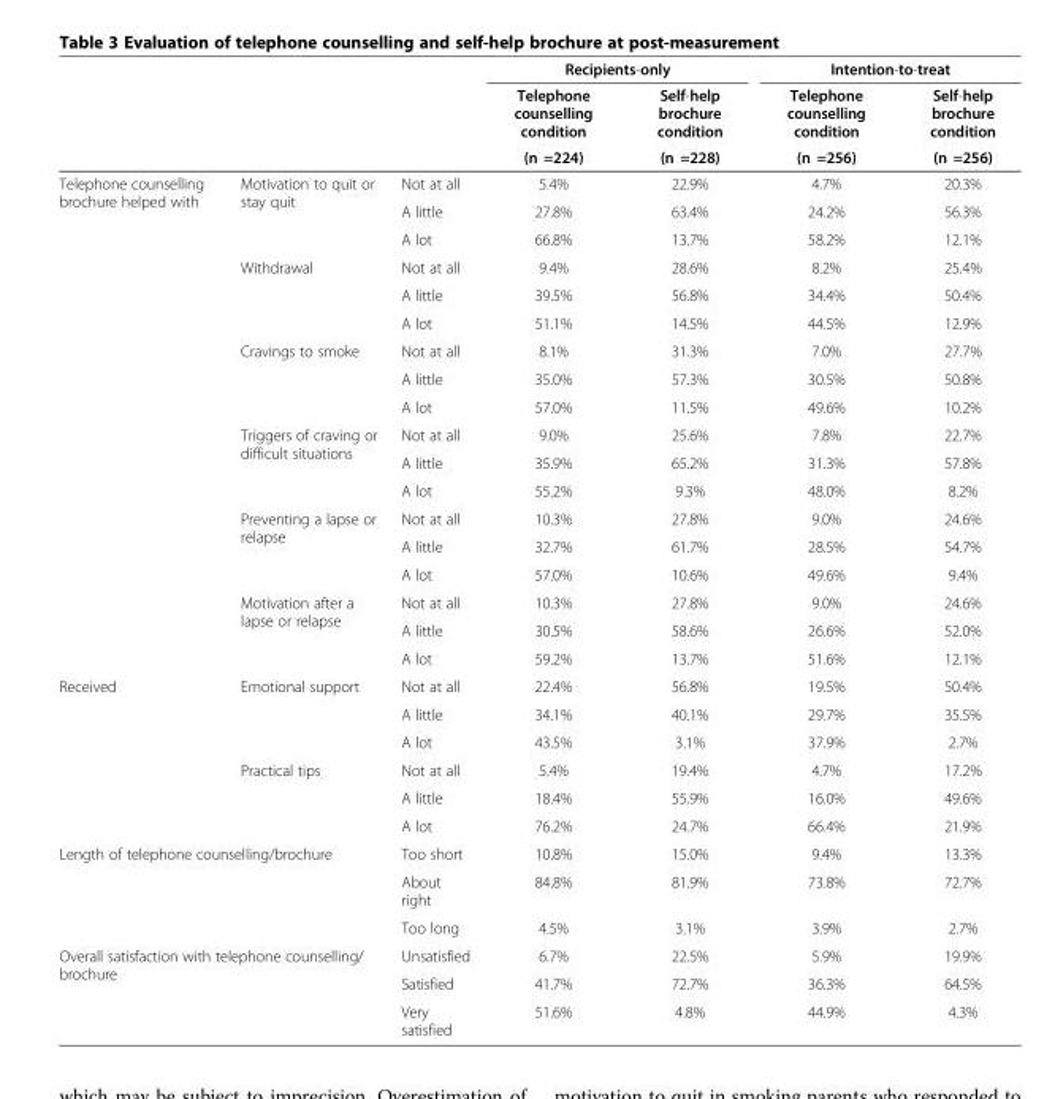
<table><thead><tr><td rowspan="3"></td><td rowspan="3"></td><td rowspan="3"></td><td colspan="2">Recipients-only</td><td colspan="2">Intention-to-treat</td></tr><tr><td rowspan="2">Telephone counselling condition (n =224)</td><td rowspan="2">Self-help brochure condition (n =228)</td><td rowspan="2">Telephone counselling condition (n =256)</td><td rowspan="2">Self-help brochure condition (n =256)</td></tr><tr></tr></thead><tbody><tr><td rowspan="18">Telephone counselling brochure helped with</td><td rowspan="3">Motivation to quit or stay quit</td><td>Not at all</td><td>5.4%</td><td>22.9%</td><td>4.7%</td><td>20.3%</td></tr><tr><td>A little</td><td>27.8%</td><td>63.4%</td><td>24.2%</td><td>56.3%</td></tr><tr><td>A lot</td><td>66.8%</td><td>13.7%</td><td>58.2%</td><td>12.1%</td></tr><tr><td rowspan="3">Withdrawal</td><td>Not at all</td><td>9.4%</td><td>28.6%</td><td>8.2%</td><td>25.4%</td></tr><tr><td>A little</td><td>39.5%</td><td>56.8%</td><td>34.4%</td><td>50.4%</td></tr><tr><td>A lot</td><td>51.1%</td><td>14.5%</td><td>44.5%</td><td>12.9%</td></tr><tr><td rowspan="3">Cravings to smoke</td><td>Not at all</td><td>8.1%</td><td>31.3%</td><td>7.0%</td><td>27.7%</td></tr><tr><td>A little</td><td>35.0%</td><td>57.3%</td><td>30.5%</td><td>50.8%</td></tr><tr><td>A lot</td><td>57.0%</td><td>11.5%</td><td>49.6%</td><td>10.2%</td></tr><tr><td rowspan="3">Triggers of craving or difficult situations</td><td>Not at all</td><td>9.0%</td><td>25.6%</td><td>7.8%</td><td>22.7%</td></tr><tr><td>A little</td><td>35.9%</td><td>65.2%</td><td>31.3%</td><td>57.8%</td></tr><tr><td>A lot</td><td>55.2%</td><td>9.3%</td><td>48.0%</td><td>8.2%</td></tr><tr><td rowspan="3">Preventing a lapse or relapse</td><td>Not at all</td><td>10.3%</td><td>27.8%</td><td>9.0%</td><td>24.6%</td></tr><tr><td>A little</td><td>32.7%</td><td>61.7%</td><td>28.5%</td><td>54.7%</td></tr><tr><td>A lot</td><td>57.0%</td><td>10.6%</td><td>49.6%</td><td>9.4%</td></tr><tr><td rowspan="3">Motivation after a lapse or relapse</td><td>Not at all</td><td>10.3%</td><td>27.8%</td><td>9.0%</td><td>24.6%</td></tr><tr><td>A little</td><td>30.5%</td><td>58.6%</td><td>26.6%</td><td>52.0%</td></tr><tr><td>A lot</td><td>59.2%</td><td>13.7%</td><td>51.6%</td><td>12.1%</td></tr><tr><td rowspan="6">Received</td><td rowspan="3">Emotional support</td><td>Not at all</td><td>22.4%</td><td>56.8%</td><td>19.5%</td><td>50.4%</td></tr><tr><td>A little</td><td>34.1%</td><td>40.1%</td><td>29.7%</td><td>35.5%</td></tr><tr><td>A lot</td><td>43.5%</td><td>3.1%</td><td>37.9%</td><td>2.7%</td></tr><tr><td rowspan="3">Practical tips</td><td>Not at all</td><td>5.4%</td><td>19.4%</td><td>4.7%</td><td>17.2%</td></tr><tr><td>A little</td><td>18.4%</td><td>55.9%</td><td>16.0%</td><td>49.6%</td></tr><tr><td>A lot</td><td>76.2%</td><td>24.7%</td><td>66.4%</td><td>21.9%</td></tr><tr><td rowspan="3" colspan="2">Length of telephone counselling/brochure</td><td>Too short</td><td>10.8%</td><td>15.0%</td><td>9.4%</td><td>13.3%</td></tr><tr><td>About right</td><td>84.8%</td><td>81.9%</td><td>73.8%</td><td>72.7%</td></tr><tr><td>Too long</td><td>4.5%</td><td>3.1%</td><td>3.9%</td><td>2.7%</td></tr><tr><td rowspan="3" colspan="2">Overall satisfaction with telephone counselling/ brochure</td><td>Unsatisfied</td><td>6.7%</td><td>22.5%</td><td>5.9%</td><td>19.9%</td></tr><tr><td>Satisfied</td><td>41.7%</td><td>72.7%</td><td>36.3%</td><td>64.5%</td></tr><tr><td>Very satisfied</td><td>51.6%</td><td>4.8%</td><td>44.9%</td><td>4.3%</td></tr></tbody></table>